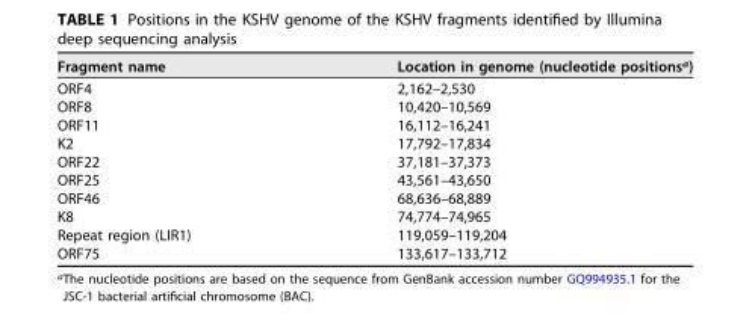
<table><thead><tr><td>Fragment name</td><td>Location in genome (nucleotide positions<sup>a</sup>)</td></tr></thead><tbody><tr><td>ORF4</td><td>2,162–2,530</td></tr><tr><td>ORF8</td><td>10,420–10,569</td></tr><tr><td>ORF11</td><td>16,112–16,241</td></tr><tr><td>K2</td><td>17,792–17,834</td></tr><tr><td>ORF22</td><td>37,181–37,373</td></tr><tr><td>ORF25</td><td>43,561–43,650</td></tr><tr><td>ORF46</td><td>68,636–68,889</td></tr><tr><td>K8</td><td>74,774–74,965</td></tr><tr><td>Repeat region (LIR1)</td><td>119,059–119,204</td></tr><tr><td>ORF75</td><td>133,617–133,712</td></tr></tbody></table>